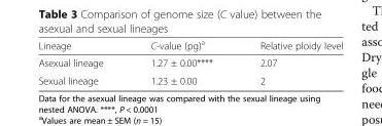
<table><thead><tr><td>Lineage</td><td>C-value (pg)<sup>a</sup></td><td>Relative ploidy level</td></tr></thead><tbody><tr><td>Asexual lineage</td><td>1.27 ± 0.00****</td><td>2.07</td></tr><tr><td>Sexual lineage</td><td>1.23 ± 0.00</td><td>2</td></tr></tbody></table>